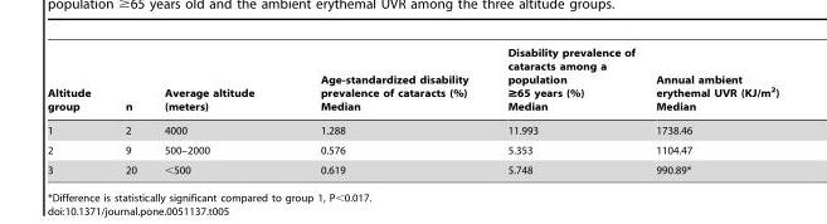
<table><thead><tr><td>Altitude group</td><td>n</td><td>Average altitude (meters)</td><td>Age-standardized disability prevalence of cataracts (%) Median</td><td>Disability prevalence of cataracts among a population ≥65 years (%) Median</td><td>Annual ambient erythemal UVR (KJ/m<sup>2</sup>) Median</td></tr></thead><tbody><tr><td>1</td><td>2</td><td>4000</td><td>1.288</td><td>11.993</td><td>1738.46</td></tr><tr><td>2</td><td>9</td><td>500–2000</td><td>0.576</td><td>5.353</td><td>1104.47</td></tr><tr><td>3</td><td>20</td><td>&lt;500</td><td>0.619</td><td>5.748</td><td>990.89*</td></tr></tbody></table>